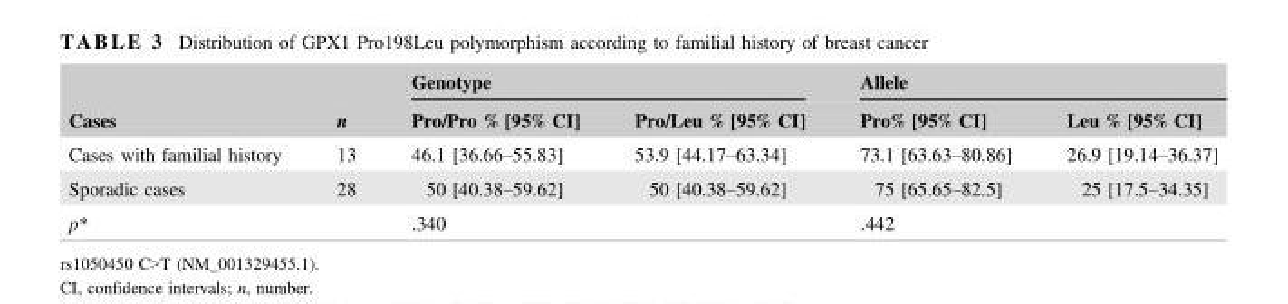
<table><thead><tr><td rowspan="2">Cases</td><td rowspan="2">n</td><td colspan="2">Genotype</td><td colspan="2">Allele</td></tr><tr><td>Pro/Pro % [95% CI]</td><td>Pro/Leu % [95% CI]</td><td>Pro% [95% CI]</td><td>Leu % [95% CI]</td></tr></thead><tbody><tr><td>Cases with familial history</td><td>13</td><td>46.1 [36.66–55.83]</td><td>53.9 [44.17–63.34]</td><td>73.1 [63.63–80.86]</td><td>26.9 [19.14–36.37]</td></tr><tr><td>Sporadic cases</td><td>28</td><td>50 [40.38–59.62]</td><td>50 [40.38–59.62]</td><td>75 [65.65–82.5]</td><td>25 [17.5–34.35]</td></tr><tr><td>p*</td><td></td><td colspan="2">.340</td><td colspan="2">.442</td></tr></tbody></table>